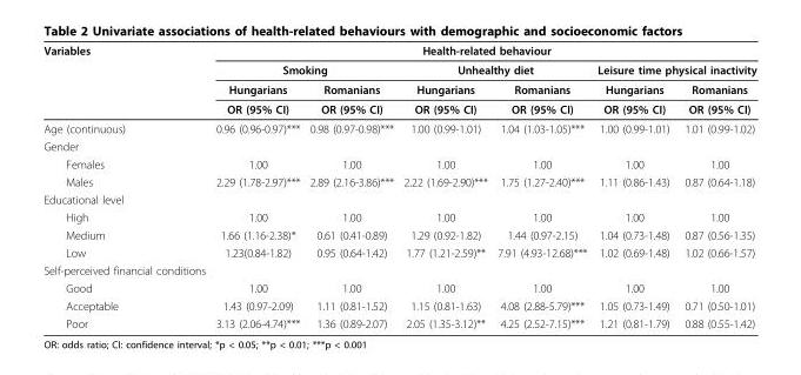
<table><thead><tr><td rowspan="4">Variables</td><td colspan="6">Health-related behaviour</td></tr><tr><td colspan="2">Smoking</td><td colspan="2">Unhealthy diet</td><td colspan="2">Leisure time physical inactivity</td></tr><tr><td rowspan="2">Hungarians OR (95% CI)</td><td rowspan="2">Romanians OR (95% CI)</td><td rowspan="2">Hungarians OR (95% CI)</td><td rowspan="2">Romanians OR (95% CI)</td><td rowspan="2">Hungarians OR (95% CI)</td><td rowspan="2">Romanians OR (95% CI)</td></tr><tr></tr></thead><tbody><tr><td>Age (continuous)</td><td>0.96 (0.96-0.97)***</td><td>0.98 (0.97-0.98)***</td><td>1.00 (0.99-1.01)</td><td>1.04 (1.03-1.05)***</td><td>1.00 (0.99-1.01)</td><td>1.01 (0.99-1.02)</td></tr><tr><td colspan="7">Gender</td></tr><tr><td>Females</td><td>1.00</td><td>1.00</td><td>1.00</td><td>1.00</td><td>1.00</td><td>1.00</td></tr><tr><td>Males</td><td>2.29 (1.78-2.97)***</td><td>2.89 (2.16-3.86)***</td><td>2.22 (1.69-2.90)***</td><td>1.75 (1.27-2.40)***</td><td>1.11 (0.86-1.43)</td><td>0.87 (0.64-1.18)</td></tr><tr><td colspan="7">Educational level</td></tr><tr><td>High</td><td>1.00</td><td>1.00</td><td>1.00</td><td>1.00</td><td>1.00</td><td>1.00</td></tr><tr><td>Medium</td><td>1.66 (1.16-2.38)*</td><td>0.61 (0.41-0.89)</td><td>1.29 (0.92-1.82)</td><td>1.44 (0.97-2.15)</td><td>1.04 (0.73-1.48)</td><td>0.87 (0.56-1.35)</td></tr><tr><td>Low</td><td>1.23(0.84-1.82)</td><td>0.95 (0.64-1.42)</td><td>1.77 (1.21-2.59)**</td><td>7.91 (4.93-12.68)***</td><td>1.02 (0.69-1.48)</td><td>1.02 (0.66-1.57)</td></tr><tr><td colspan="7">Self-perceived financial conditions</td></tr><tr><td>Good</td><td>1.00</td><td>1.00</td><td>1.00</td><td>1.00</td><td>1.00</td><td>1.00</td></tr><tr><td>Acceptable</td><td>1.43 (0.97-2.09)</td><td>1.11 (0.81-1.52)</td><td>1.15 (0.81-1.63)</td><td>4.08 (2.88-5.79)***</td><td>1.05 (0.73-1.49)</td><td>0.71 (0.50-1.01)</td></tr><tr><td>Poor</td><td>3.13 (2.06-4.74)***</td><td>1.36 (0.89-2.07)</td><td>2.05 (1.35-3.12)**</td><td>4.25 (2.52-7.15)***</td><td>1.21 (0.81-1.79)</td><td>0.88 (0.55-1.42)</td></tr></tbody></table>